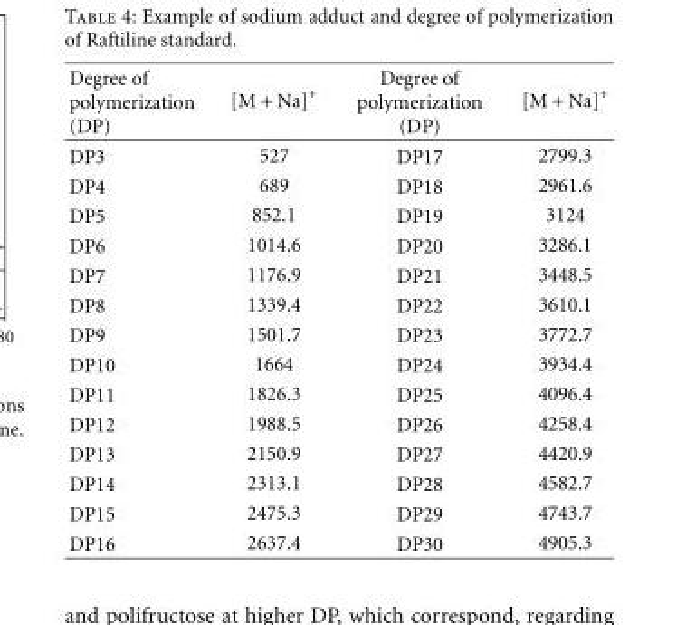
<table><thead><tr><td>Degree of polymerization (DP)</td><td>[M + Na]<sup>+</sup></td><td>Degree of polymerization (DP)</td><td>[M + Na]<sup>+</sup></td></tr></thead><tbody><tr><td>DP3</td><td>527</td><td>DP17</td><td>2799.3</td></tr><tr><td>DP4</td><td>689</td><td>DP18</td><td>2961.6</td></tr><tr><td>DP5</td><td>852.1</td><td>DP19</td><td>3124</td></tr><tr><td>DP6</td><td>1014.6</td><td>DP20</td><td>3286.1</td></tr><tr><td>DP7</td><td>1176.9</td><td>DP21</td><td>3448.5</td></tr><tr><td>DP8</td><td>1339.4</td><td>DP22</td><td>3610.1</td></tr><tr><td>DP9</td><td>1501.7</td><td>DP23</td><td>3772.7</td></tr><tr><td>DP10</td><td>1664</td><td>DP24</td><td>3934.4</td></tr><tr><td>DP11</td><td>1826.3</td><td>DP25</td><td>4096.4</td></tr><tr><td>DP12</td><td>1988.5</td><td>DP26</td><td>4258.4</td></tr><tr><td>DP13</td><td>2150.9</td><td>DP27</td><td>4420.9</td></tr><tr><td>DP14</td><td>2313.1</td><td>DP28</td><td>4582.7</td></tr><tr><td>DP15</td><td>2475.3</td><td>DP29</td><td>4743.7</td></tr><tr><td>DP16</td><td>2637.4</td><td>DP30</td><td>4905.3</td></tr></tbody></table>